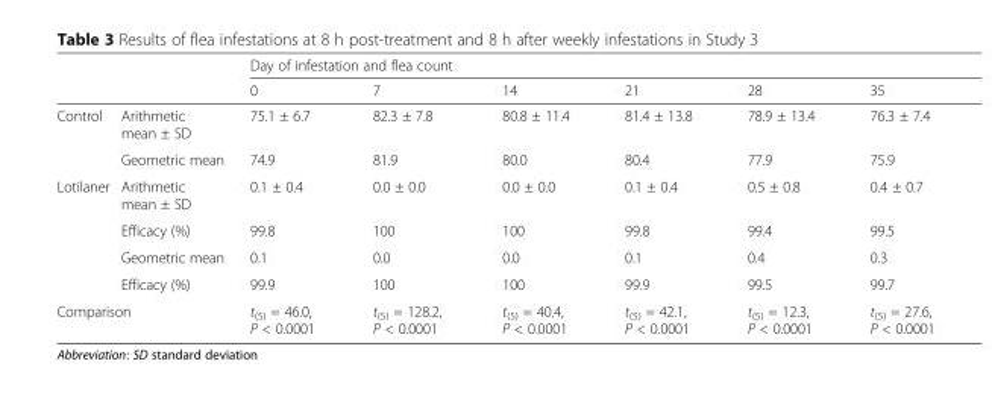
<table><thead><tr><td rowspan="2"></td><td rowspan="2"></td><td colspan="6">Day of infestation and flea count</td></tr><tr><td>0</td><td>7</td><td>14</td><td>21</td><td>28</td><td>35</td></tr></thead><tbody><tr><td rowspan="2">Control</td><td>Arithmetic mean ± SD</td><td>75.1 ± 6.7</td><td>82.3 ± 7.8</td><td>80.8 ± 11.4</td><td>81.4 ± 13.8</td><td>78.9 ± 13.4</td><td>76.3 ± 7.4</td></tr><tr><td>Geometric mean</td><td>74.9</td><td>81.9</td><td>80.0</td><td>80.4</td><td>77.9</td><td>75.9</td></tr><tr><td rowspan="4">Lotilaner</td><td>Arithmetic mean ± SD</td><td>0.1 ± 0.4</td><td>0.0 ± 0.0</td><td>0.0 ± 0.0</td><td>0.1 ± 0.4</td><td>0.5 ± 0.8</td><td>0.4 ± 0.7</td></tr><tr><td>Efficacy (%)</td><td>99.8</td><td>100</td><td>100</td><td>99.8</td><td>99.4</td><td>99.5</td></tr><tr><td>Geometric mean</td><td>0.1</td><td>0.0</td><td>0.0</td><td>0.1</td><td>0.4</td><td>0.3</td></tr><tr><td>Efficacy (%)</td><td>99.9</td><td>100</td><td>100</td><td>99.9</td><td>99.5</td><td>99.7</td></tr><tr><td colspan="2">Comparison</td><td>t<sub>(5)</sub> = 46.0, P &lt; 0.0001</td><td>t<sub>(5)</sub> = 128.2, P &lt; 0.0001</td><td>t<sub>(5)</sub> = 40.4, P &lt; 0.0001</td><td>t<sub>(5)</sub> = 42.1, P &lt; 0.0001</td><td>t<sub>(5)</sub> = 12.3, P &lt; 0.0001</td><td>t<sub>(5)</sub> = 27.6, P &lt; 0.0001</td></tr></tbody></table>